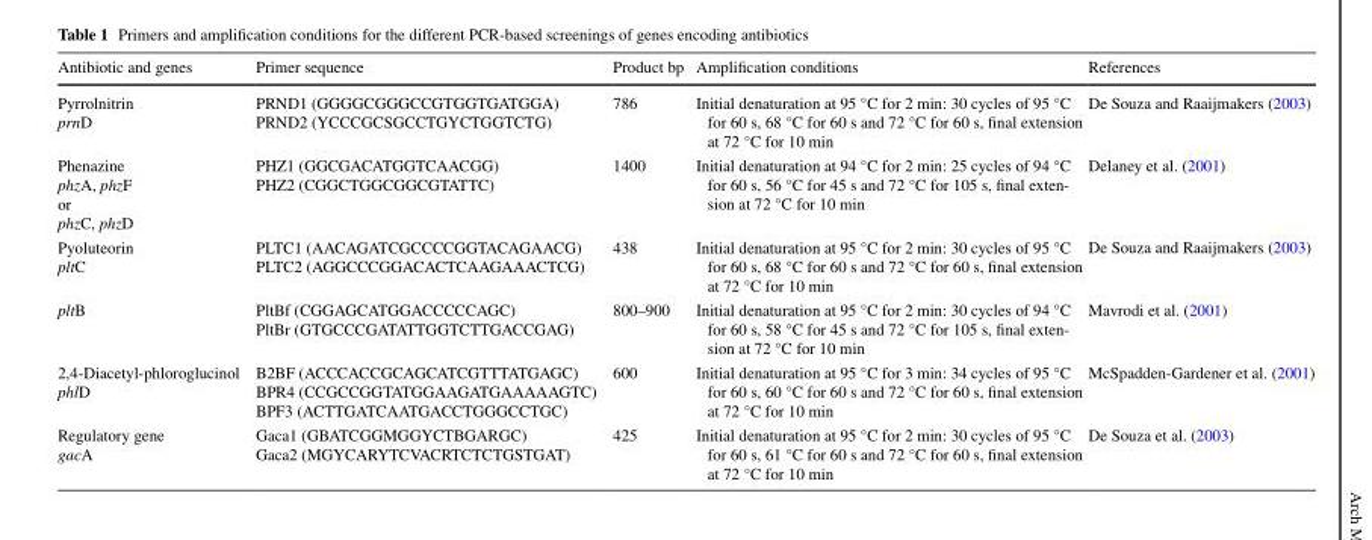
<table><thead><tr><td>Antibiotic and genes</td><td>Primer sequence</td><td>Product bp</td><td>Amplification conditions</td><td>References</td></tr></thead><tbody><tr><td>Pyrrolnitrin prnD</td><td>PRND1 (GGGGCGGGCCGTGGTGATGGA) PRND2 (YCCCGCSGCCTGYCTGGTCTG)</td><td>786</td><td>Initial denaturation at 95 °C for 2 min: 30 cycles of 95 °C for 60 s, 68 °C for 60 s and 72 °C for 60 s, final extension at 72 °C for 10 min</td><td>De Souza and Raaijmakers (2003)</td></tr><tr><td>Phenazine phzA, phzF or phzC, phzD</td><td>PHZ1 (GGCGACATGGTCAACGG) PHZ2 (CGGCTGGCGGCGTATTC)</td><td>1400</td><td>Initial denaturation at 94 °C for 2 min: 25 cycles of 94 °C for 60 s, 56 °C for 45 s and 72 °C for 105 s, final exten- sion at 72 °C for 10 min</td><td>Delaney et al. (2001)</td></tr><tr><td>Pyoluteorin pltC</td><td>PLTC1 (AACAGATCGCCCCGGTACAGAACG) PLTC2 (AGGCCCGGACACTCAAGAAACTCG)</td><td>438</td><td>Initial denaturation at 95 °C for 2 min: 30 cycles of 95 °C for 60 s, 68 °C for 60 s and 72 °C for 60 s, final extension at 72 °C for 10 min</td><td>De Souza and Raaijmakers (2003)</td></tr><tr><td>pltB</td><td>PltBf (CGGAGCATGGACCCCCAGC) PltBr (GTGCCCGATATTGGTCTTGACCGAG)</td><td>800–900</td><td>Initial denaturation at 95 °C for 2 min: 30 cycles of 94 °C for 60 s, 58 °C for 45 s and 72 °C for 105 s, final exten- sion at 72 °C for 10 min</td><td>Mavrodi et al. (2001)</td></tr><tr><td>2,4-Diacetyl-phloroglucinol phlD</td><td>B2BF (ACCCACCGCAGCATCGTTTATGAGC) BPR4 (CCGCCGGTATGGAAGATGAAAAAGTC) BPF3 (ACTTGATCAATGACCTGGGCCTGC)</td><td>600</td><td>Initial denaturation at 95 °C for 3 min: 34 cycles of 95 °C for 60 s, 60 °C for 60 s and 72 °C for 60 s, final extension at 72 °C for 10 min</td><td>McSpadden-Gardener et al. (2001)</td></tr><tr><td>Regulatory gene gacA</td><td>Gaca1 (GBATCGGMGGYCTBGARGC) Gaca2 (MGYCARYTCVACRTCTCTGSTGAT)</td><td>425</td><td>Initial denaturation at 95 °C for 2 min: 30 cycles of 95 °C for 60 s, 61 °C for 60 s and 72 °C for 60 s, final extension at 72 °C for 10 min</td><td>De Souza et al. (2003)</td></tr></tbody></table>